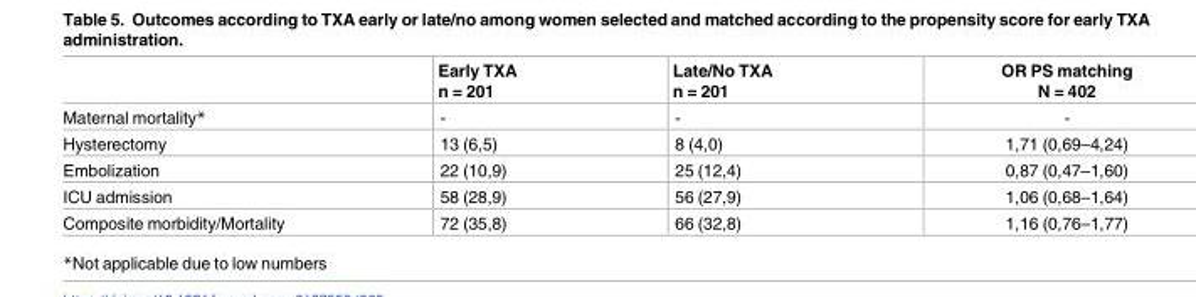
<table><thead><tr><td></td><td>Early TXA n = 201</td><td>Late/No TXA n = 201</td><td>OR PS matching N = 402</td></tr></thead><tbody><tr><td>Maternal mortality*</td><td>-</td><td>-</td><td>-</td></tr><tr><td>Hysterectomy</td><td>13 (6,5)</td><td>8 (4,0)</td><td>1,71 (0,69–4,24)</td></tr><tr><td>Embolization</td><td>22 (10,9)</td><td>25 (12,4)</td><td>0,87 (0,47–1,60)</td></tr><tr><td>ICU admission</td><td>58 (28,9)</td><td>56 (27,9)</td><td>1,06 (0,68–1,64)</td></tr><tr><td>Composite morbidity/Mortality</td><td>72 (35,8)</td><td>66 (32,8)</td><td>1,16 (0,76–1,77)</td></tr></tbody></table>